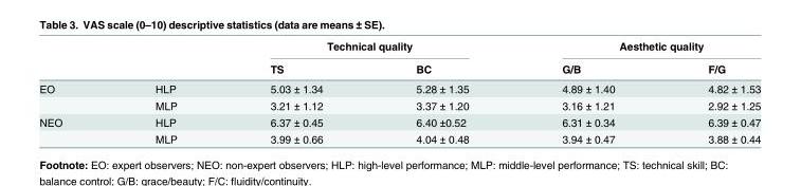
<table><thead><tr><td rowspan="2"></td><td rowspan="2"></td><td colspan="2">Technical quality</td><td colspan="2">Aesthetic quality</td></tr><tr><td>TS</td><td>BC</td><td>G/B</td><td>F/G</td></tr></thead><tbody><tr><td rowspan="2">EO</td><td>HLP</td><td>5.03 ± 1.34</td><td>5.28 ± 1.35</td><td>4.89 ± 1.40</td><td>4.82 ± 1.53</td></tr><tr><td>MLP</td><td>3.21 ± 1.12</td><td>3.37 ± 1.20</td><td>3.16 ± 1.21</td><td>2.92 ± 1.25</td></tr><tr><td rowspan="2">NEO</td><td>HLP</td><td>6.37 ± 0.45</td><td>6.40 ±0.52</td><td>6.31 ± 0.34</td><td>6.39 ± 0.47</td></tr><tr><td>MLP</td><td>3.99 ± 0.66</td><td>4.04 ± 0.48</td><td>3.94 ± 0.47</td><td>3.88 ± 0.44</td></tr></tbody></table>